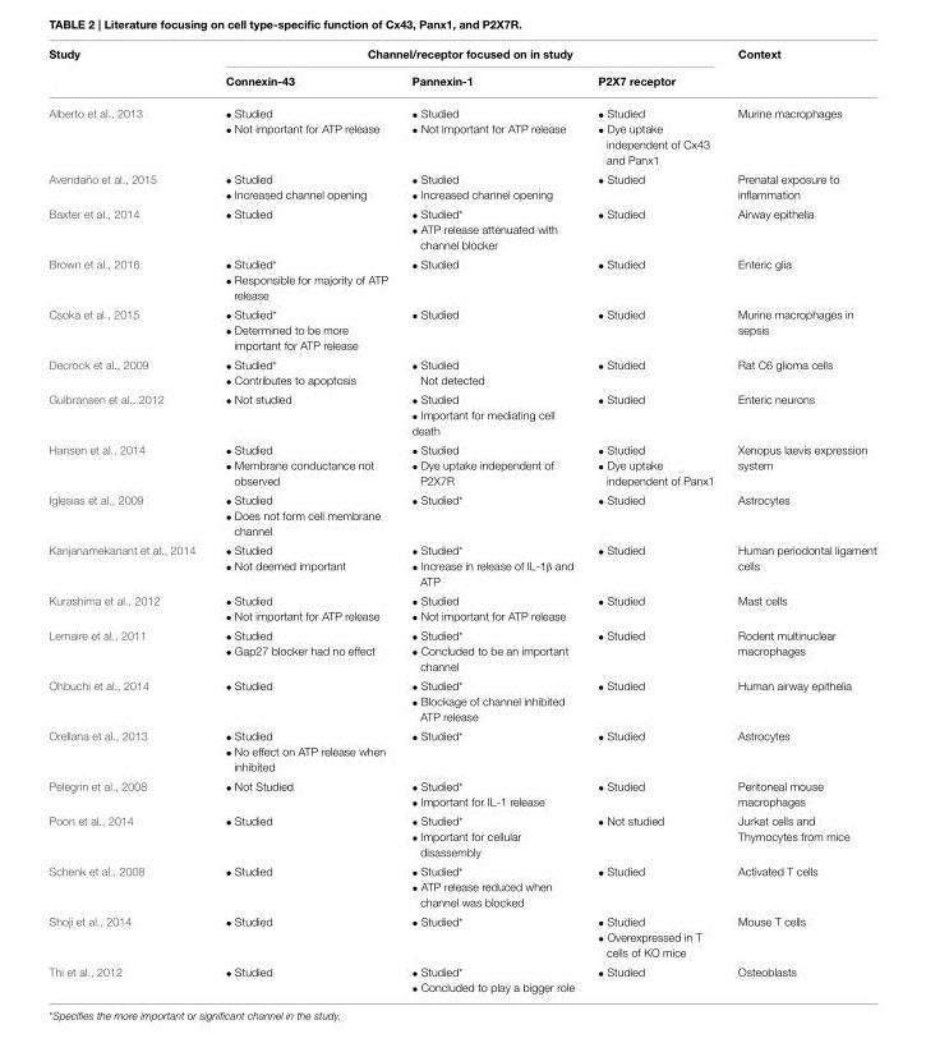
<table><thead><tr><td rowspan="2">Study</td><td colspan="3">Channel/receptor focused on in study</td><td rowspan="2">Context</td></tr><tr><td>Connexin-43</td><td>Pannexin-1</td><td>P2X7 receptor</td></tr></thead><tbody><tr><td>Alberto et al., 2013</td><td>• Studied • Not important for ATP release</td><td>• Studied • Not important for ATP release</td><td>• Studied • Dye uptake independent of Cx43 and Panx1</td><td>Murine macrophages</td></tr><tr><td>Avendaño et al., 2015</td><td>• Studied • Increased channel opening</td><td>• Studied • Increased channel opening</td><td>• Studied</td><td>Prenatal exposure to inflammation</td></tr><tr><td>Baxter et al., 2014</td><td>• Studied</td><td>• Studied* • ATP release attenuated with channel blocker</td><td>• Studied</td><td>Airway epithelia</td></tr><tr><td>Brown et al., 2016</td><td>• Studied* • Responsible for majority of ATP release</td><td>• Studied</td><td>• Studied</td><td>Enteric glia</td></tr><tr><td>Csoka et al., 2015</td><td>• Studied* • Determined to be more important for ATP release</td><td>• Studied</td><td>• Studied</td><td>Murine macrophages in sepsis</td></tr><tr><td>Decrock et al., 2009</td><td>• Studied* • Contributes to apoptosis</td><td>• Studied Not detected</td><td>• Studied</td><td>Rat C6 glioma cells</td></tr><tr><td>Gulbransen et al., 2012</td><td>• Not studied</td><td>• Studied • Important for mediating cell death</td><td>• Studied</td><td>Enteric neurons</td></tr><tr><td>Hansen et al., 2014</td><td>• Studied • Membrane conductance not observed</td><td>• Studied • Dye uptake independent of P2X7R</td><td>• Studied • Dye uptake independent of Panx1</td><td>Xenopus laevis expression system</td></tr><tr><td>Iglesias et al., 2009</td><td>• Studied • Does not form cell membrane channel</td><td>• Studied*</td><td>• Studied</td><td>Astrocytes</td></tr><tr><td>Kanjanamekanant et al., 2014</td><td>• Studied • Not deemed important</td><td>• Studied* • Increase in release of IL-1β and ATP</td><td>• Studied</td><td>Human periodontal ligament cells</td></tr><tr><td>Kurashima et al., 2012</td><td>• Studied • Not important for ATP release</td><td>• Studied • Not important for ATP release</td><td>• Studied</td><td>Mast cells</td></tr><tr><td>Lemaire et al., 2011</td><td>• Studied • Gap27 blocker had no effect</td><td>• Studied* • Concluded to be an important channel</td><td>• Studied</td><td>Rodent multinuclear macrophages</td></tr><tr><td>Ohbuchi et al., 2014</td><td>• Studied</td><td>• Studied* • Blockage of channel inhibited ATP release</td><td>• Studied</td><td>Human airway epithelia</td></tr><tr><td>Orellana et al., 2013</td><td>• Studied • No effect on ATP release when inhibited</td><td>• Studied*</td><td>• Studied</td><td>Astrocytes</td></tr><tr><td>Pelegrin et al., 2008</td><td>• Not Studied</td><td>• Studied* • Important for IL-1 release</td><td>• Studied</td><td>Peritoneal mouse macrophages</td></tr><tr><td>Poon et al., 2014</td><td>• Studied</td><td>• Studied* • Important for cellular disassembly</td><td>• Not studied</td><td>Jurkat cells and Thymocytes from mice</td></tr><tr><td>Schenk et al., 2008</td><td>• Studied</td><td>• Studied* • ATP release reduced when channel was blocked</td><td>• Studied</td><td>Activated T cells</td></tr><tr><td>Shoji et al., 2014</td><td>• Studied</td><td>• Studied*</td><td>• Studied • Overexpressed in T cells of KO mice</td><td>Mouse T cells</td></tr><tr><td>Thi et al., 2012</td><td>• Studied</td><td>• Studied* • Concluded to play a bigger role</td><td>• Studied</td><td>Osteoblasts</td></tr></tbody></table>